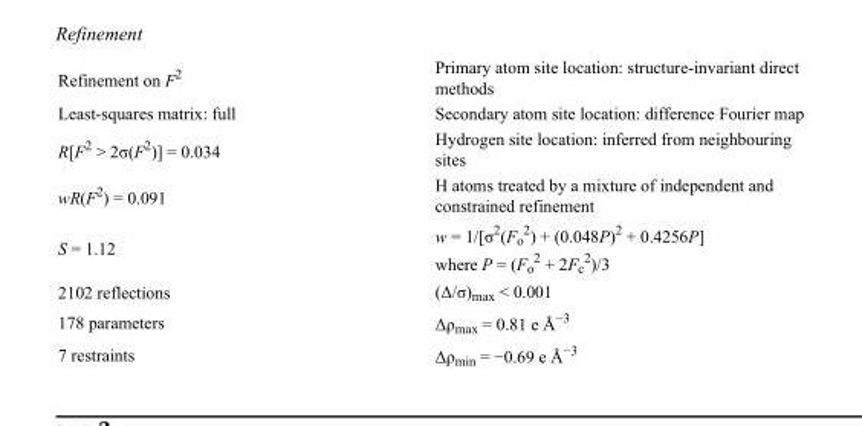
<table><tbody><tr><td>Refinement on F<sup>2</sup></td><td>Primary atom site location: structure-invariant direct methods</td></tr><tr><td>Least-squares matrix: full</td><td>Secondary atom site location: difference Fourier map</td></tr><tr><td>R[F<sup>2</sup> &gt; 2σ(F<sup>2</sup>)] = 0.034</td><td>Hydrogen site location: inferred from neighbouring sites</td></tr><tr><td>wR(F<sup>2</sup>) = 0.091</td><td>H atoms treated by a mixture of independent and constrained refinement</td></tr><tr><td>S = 1.12</td><td>w = 1/[σ<sup>2</sup>(F<sub>o</sub> <sup>2</sup>) + (0.048P)<sup>2</sup> + 0.4256P] where P = (F<sub>o</sub> <sup>2</sup> + 2F<sub>c</sub> <sup>2</sup>)/3</td></tr><tr><td>2102 reflections</td><td>(Δ/σ)<sub>max</sub> &lt; 0.001</td></tr><tr><td>178 parameters</td><td>Δρ<sub>max</sub> = 0.81 e Å<sup>−3</sup></td></tr><tr><td>7 restraints</td><td>Δρ<sub>min</sub> = −0.69 e Å<sup>−3</sup></td></tr></tbody></table>